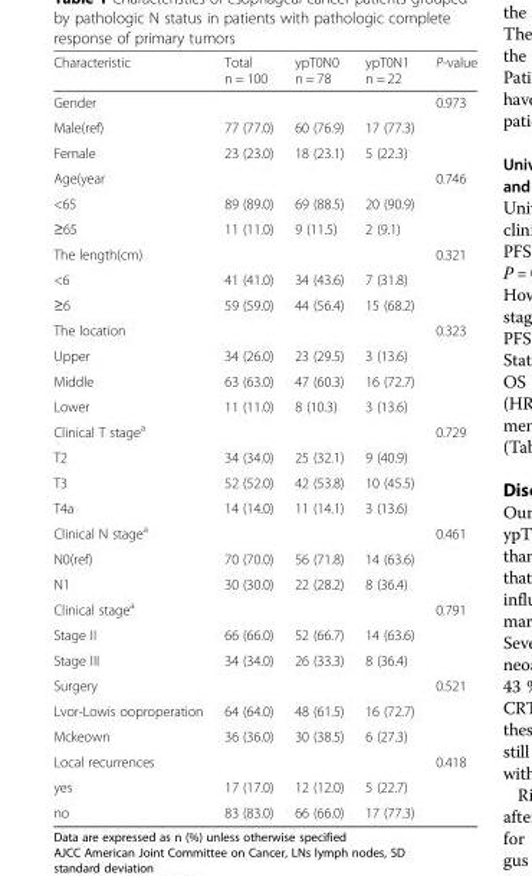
<table><thead><tr><td>Characteristic</td><td>Total n = 100</td><td>ypT0N0 n = 78</td><td>ypT0N1 n = 22</td><td>P-value</td></tr></thead><tbody><tr><td>Gender</td><td></td><td></td><td></td><td>0.973</td></tr><tr><td>Male(ref)</td><td>77 (77.0)</td><td>60 (76.9)</td><td>17 (77.3)</td><td></td></tr><tr><td>Female</td><td>23 (23.0)</td><td>18 (23.1)</td><td>5 (22.3)</td><td></td></tr><tr><td>Age(year</td><td></td><td></td><td></td><td>0.746</td></tr><tr><td>&lt;65</td><td>89 (89.0)</td><td>69 (88.5)</td><td>20 (90.9)</td><td></td></tr><tr><td>≥65</td><td>11 (11.0)</td><td>9 (11.5)</td><td>2 (9.1)</td><td></td></tr><tr><td>The length(cm)</td><td></td><td></td><td></td><td>0.321</td></tr><tr><td>&lt;6</td><td>41 (41.0)</td><td>34 (43.6)</td><td>7 (31.8)</td><td></td></tr><tr><td>≥6</td><td>59 (59.0)</td><td>44 (56.4)</td><td>15 (68.2)</td><td></td></tr><tr><td>The location</td><td></td><td></td><td></td><td>0.323</td></tr><tr><td>Upper</td><td>34 (26.0)</td><td>23 (29.5)</td><td>3 (13.6)</td><td></td></tr><tr><td>Middle</td><td>63 (63.0)</td><td>47 (60.3)</td><td>16 (72.7)</td><td></td></tr><tr><td>Lower</td><td>11 (11.0)</td><td>8 (10.3)</td><td>3 (13.6)</td><td></td></tr><tr><td>Clinical T stage<sup>a</sup></td><td></td><td></td><td></td><td>0.729</td></tr><tr><td>T2</td><td>34 (34.0)</td><td>25 (32.1)</td><td>9 (40.9)</td><td></td></tr><tr><td>T3</td><td>52 (52.0)</td><td>42 (53.8)</td><td>10 (45.5)</td><td></td></tr><tr><td>T4a</td><td>14 (14.0)</td><td>11 (14.1)</td><td>3 (13.6)</td><td></td></tr><tr><td>Clinical N stage<sup>a</sup></td><td></td><td></td><td></td><td>0.461</td></tr><tr><td>N0(ref)</td><td>70 (70.0)</td><td>56 (71.8)</td><td>14 (63.6)</td><td></td></tr><tr><td>N1</td><td>30 (30.0)</td><td>22 (28.2)</td><td>8 (36.4)</td><td></td></tr><tr><td>Clinical stage<sup>a</sup></td><td></td><td></td><td></td><td>0.791</td></tr><tr><td>Stage II</td><td>66 (66.0)</td><td>52 (66.7)</td><td>14 (63.6)</td><td></td></tr><tr><td>Stage III</td><td>34 (34.0)</td><td>26 (33.3)</td><td>8 (36.4)</td><td></td></tr><tr><td>Surgery</td><td></td><td></td><td></td><td>0.521</td></tr><tr><td>Lvor-Lowis ooproperation</td><td>64 (64.0)</td><td>48 (61.5)</td><td>16 (72.7)</td><td></td></tr><tr><td>Mckeown</td><td>36 (36.0)</td><td>30 (38.5)</td><td>6 (27.3)</td><td></td></tr><tr><td>Local recurrences</td><td></td><td></td><td></td><td>0.418</td></tr><tr><td>yes</td><td>17 (17.0)</td><td>12 (12.0)</td><td>5 (22.7)</td><td></td></tr><tr><td>no</td><td>83 (83.0)</td><td>66 (66.0)</td><td>17 (77.3)</td><td></td></tr></tbody></table>